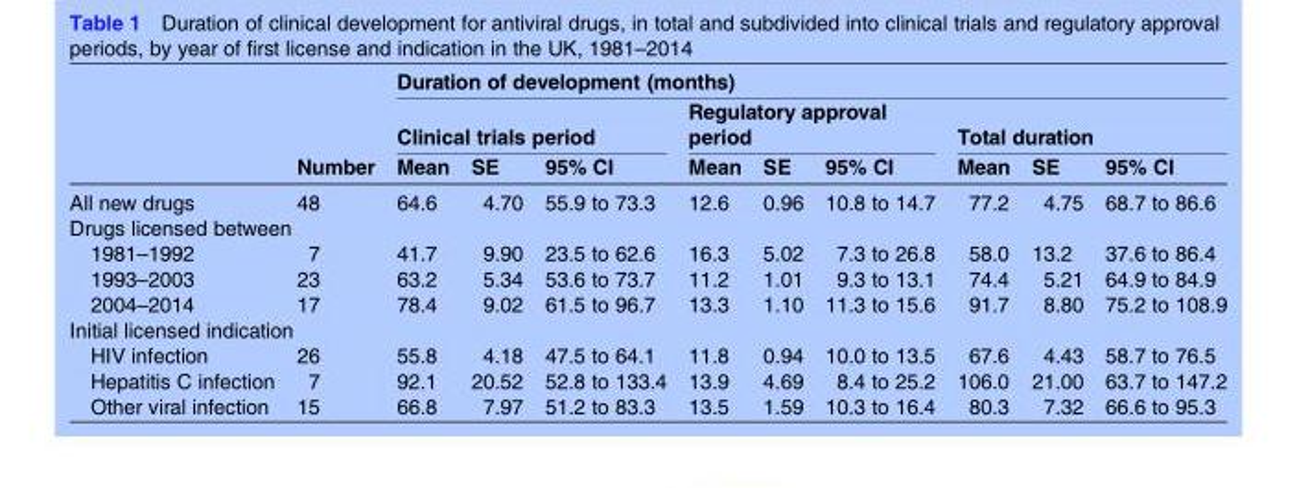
<table><thead><tr><td rowspan="3"></td><td rowspan="3">Number</td><td colspan="9">Duration of development (months)</td></tr><tr><td colspan="3">Clinical trials period</td><td colspan="3">Regulatory approval period</td><td colspan="3">Total duration</td></tr><tr><td>Mean</td><td>SE</td><td>95% CI</td><td>Mean</td><td>SE</td><td>95% CI</td><td>Mean</td><td>SE</td><td>95% CI</td></tr></thead><tbody><tr><td>All new drugs</td><td>48</td><td>64.6</td><td>4.70</td><td>55.9 to 73.3</td><td>12.6</td><td>0.96</td><td>10.8 to 14.7</td><td>77.2</td><td>4.75</td><td>68.7 to 86.6</td></tr><tr><td colspan="11">Drugs licensed between</td></tr><tr><td>1981–1992</td><td>7</td><td>41.7</td><td>9.90</td><td>23.5 to 62.6</td><td>16.3</td><td>5.02</td><td>7.3 to 26.8</td><td>58.0</td><td>13.2</td><td>37.6 to 86.4</td></tr><tr><td>1993–2003</td><td>23</td><td>63.2</td><td>5.34</td><td>53.6 to 73.7</td><td>11.2</td><td>1.01</td><td>9.3 to 13.1</td><td>74.4</td><td>5.21</td><td>64.9 to 84.9</td></tr><tr><td>2004–2014</td><td>17</td><td>78.4</td><td>9.02</td><td>61.5 to 96.7</td><td>13.3</td><td>1.10</td><td>11.3 to 15.6</td><td>91.7</td><td>8.80</td><td>75.2 to 108.9</td></tr><tr><td colspan="11">Initial licensed indication</td></tr><tr><td>HIV infection</td><td>26</td><td>55.8</td><td>4.18</td><td>47.5 to 64.1</td><td>11.8</td><td>0.94</td><td>10.0 to 13.5</td><td>67.6</td><td>4.43</td><td>58.7 to 76.5</td></tr><tr><td>Hepatitis C infection</td><td>7</td><td>92.1</td><td>20.52</td><td>52.8 to 133.4</td><td>13.9</td><td>4.69</td><td>8.4 to 25.2</td><td>106.0</td><td>21.00</td><td>63.7 to 147.2</td></tr><tr><td>Other viral infection</td><td>15</td><td>66.8</td><td>7.97</td><td>51.2 to 83.3</td><td>13.5</td><td>1.59</td><td>10.3 to 16.4</td><td>80.3</td><td>7.32</td><td>66.6 to 95.3</td></tr></tbody></table>